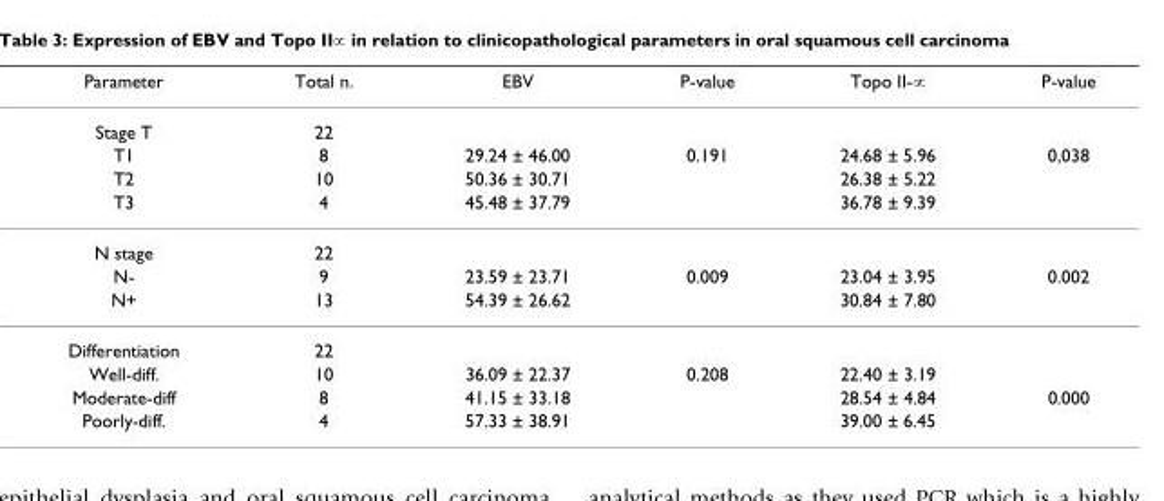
<table><thead><tr><td>Parameter</td><td>Total n.</td><td>EBV</td><td>P-value</td><td>Topo II-∝</td><td>P-value</td></tr></thead><tbody><tr><td>Stage T</td><td>22</td><td></td><td></td><td></td><td></td></tr><tr><td>T1</td><td>8</td><td>29.24 ± 46.00</td><td>0.191</td><td>24.68 ± 5.96</td><td>0,038</td></tr><tr><td>T2</td><td>10</td><td>50.36 ± 30.71</td><td></td><td>26.38 ± 5.22</td><td></td></tr><tr><td>T3</td><td>4</td><td>45.48 ± 37.79</td><td></td><td>36.78 ± 9.39</td><td></td></tr><tr><td>N stage</td><td>22</td><td></td><td></td><td></td><td></td></tr><tr><td>N-</td><td>9</td><td>23.59 ± 23.71</td><td>0.009</td><td>23.04 ± 3.95</td><td>0.002</td></tr><tr><td>N+</td><td>13</td><td>54.39 ± 26.62</td><td></td><td>30.84 ± 7.80</td><td></td></tr><tr><td>Differentiation</td><td>22</td><td></td><td></td><td></td><td></td></tr><tr><td>Well-diff.</td><td>10</td><td>36.09 ± 22.37</td><td>0.208</td><td>22.40 ± 3.19</td><td></td></tr><tr><td>Moderate-diff</td><td>8</td><td>41.15 ± 33.18</td><td></td><td>28.54 ± 4.84</td><td>0.000</td></tr><tr><td>Poorly-diff.</td><td>4</td><td>57.33 ± 38.91</td><td></td><td>39.00 ± 6.45</td><td></td></tr></tbody></table>